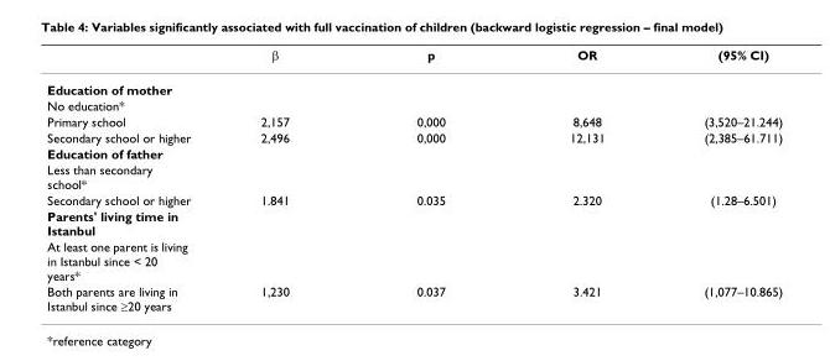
<table><thead><tr><td></td><td>β</td><td>p</td><td>OR</td><td>(95% CI)</td></tr></thead><tbody><tr><td colspan="5">Education of mother</td></tr><tr><td colspan="5">No education*</td></tr><tr><td>Primary school</td><td>2,157</td><td>0,000</td><td>8,648</td><td>(3,520–21.244)</td></tr><tr><td>Secondary school or higher</td><td>2,496</td><td>0,000</td><td>12,131</td><td>(2,385–61.711)</td></tr><tr><td colspan="5">Education of father</td></tr><tr><td colspan="5">Less than secondary school*</td></tr><tr><td>Secondary school or higher</td><td>1.841</td><td>0.035</td><td>2.320</td><td>(1.28–6.501)</td></tr><tr><td colspan="5">Parents&#x27; living time in Istanbul</td></tr><tr><td colspan="5">At least one parent is living in Istanbul since &lt; 20 years*</td></tr><tr><td>Both parents are living in Istanbul since ≥20 years</td><td>1,230</td><td>0.037</td><td>3.421</td><td>(1,077–10.865)</td></tr></tbody></table>